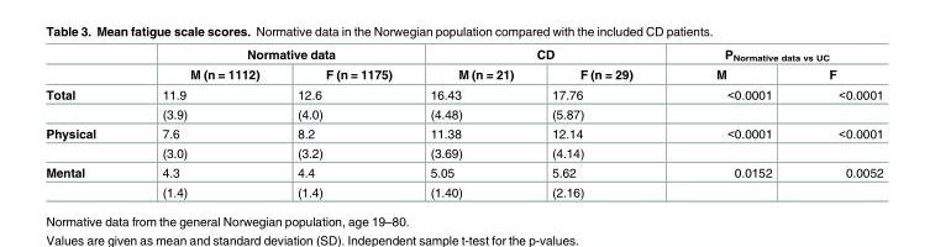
<table><thead><tr><td rowspan="2"></td><td colspan="2">Normative data</td><td colspan="2">CD</td><td colspan="2">P<sub>Normative data vs UC</sub></td></tr><tr><td>M (n = 1112)</td><td>F (n = 1175)</td><td>M (n = 21)</td><td>F (n = 29)</td><td>M</td><td>F</td></tr></thead><tbody><tr><td rowspan="2">Total</td><td>11.9</td><td>12.6</td><td>16.43</td><td>17.76</td><td>&lt;0.0001</td><td>&lt;0.0001</td></tr><tr><td>(3.9)</td><td>(4.0)</td><td>(4.48)</td><td>(5.87)</td><td></td><td></td></tr><tr><td rowspan="2">Physical</td><td>7.6</td><td>8.2</td><td>11.38</td><td>12.14</td><td>&lt;0.0001</td><td>&lt;0.0001</td></tr><tr><td>(3.0)</td><td>(3.2)</td><td>(3.69)</td><td>(4.14)</td><td></td><td></td></tr><tr><td rowspan="2">Mental</td><td>4.3</td><td>4.4</td><td>5.05</td><td>5.62</td><td>0.0152</td><td>0.0052</td></tr><tr><td>(1.4)</td><td>(1.4)</td><td>(1.40)</td><td>(2.16)</td><td></td><td></td></tr></tbody></table>